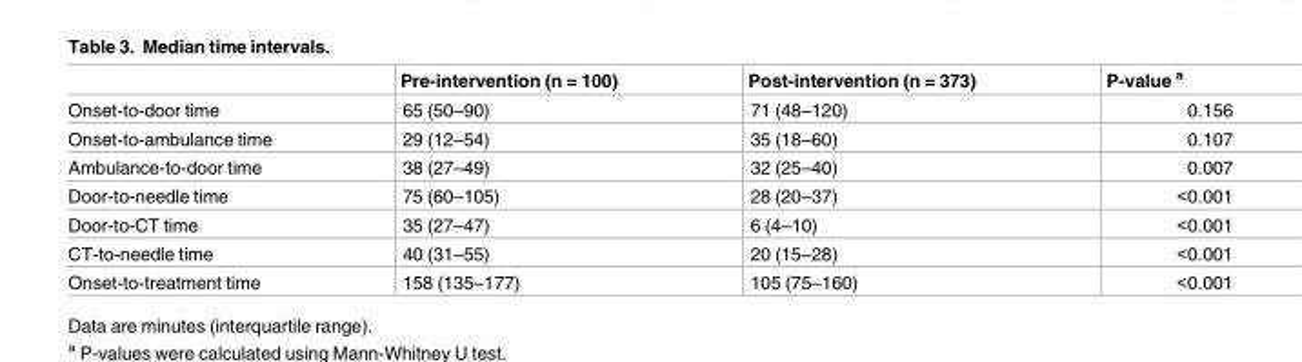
<table><thead><tr><td></td><td>Pre-intervention (n = 100)</td><td>Post-intervention (n = 373)</td><td>P-value <sup>a</sup></td></tr></thead><tbody><tr><td>Onset-to-door time</td><td>65 (50–90)</td><td>71 (48–120)</td><td>0.156</td></tr><tr><td>Onset-to-ambulance time</td><td>29 (12–54)</td><td>35 (18–60)</td><td>0.107</td></tr><tr><td>Ambulance-to-door time</td><td>38 (27–49)</td><td>32 (25–40)</td><td>0.007</td></tr><tr><td>Door-to-needle time</td><td>75 (60–105)</td><td>28 (20–37)</td><td>&lt;0.001</td></tr><tr><td>Door-to-CT time</td><td>35 (27–47)</td><td>6 (4–10)</td><td>&lt;0.001</td></tr><tr><td>CT-to-needle time</td><td>40 (31–55)</td><td>20 (15–28)</td><td>&lt;0.001</td></tr><tr><td>Onset-to-treatment time</td><td>158 (135–177)</td><td>105 (75–160)</td><td>&lt;0.001</td></tr></tbody></table>